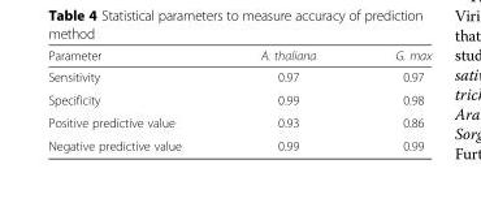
<table><thead><tr><td>Parameter</td><td>A. thaliana</td><td>G. max</td></tr></thead><tbody><tr><td>Sensitivity</td><td>0.97</td><td>0.97</td></tr><tr><td>Specificity</td><td>0.99</td><td>0.98</td></tr><tr><td>Positive predictive value</td><td>0.93</td><td>0.86</td></tr><tr><td>Negative predictive value</td><td>0.99</td><td>0.99</td></tr></tbody></table>